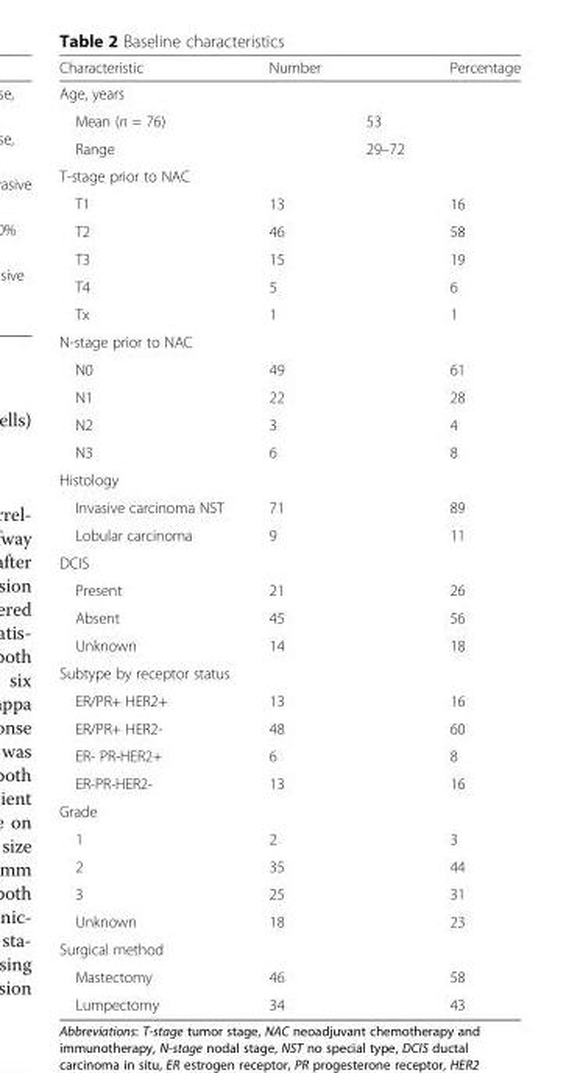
<table><thead><tr><td>Characteristic</td><td>Number</td><td></td><td>Percentage</td></tr></thead><tbody><tr><td colspan="4">Age, years</td></tr><tr><td>Mean (n = 76)</td><td></td><td>53</td><td></td></tr><tr><td>Range</td><td></td><td>29–72</td><td></td></tr><tr><td colspan="4">T-stage prior to NAC</td></tr><tr><td>T1</td><td>13</td><td></td><td>16</td></tr><tr><td>T2</td><td>46</td><td></td><td>58</td></tr><tr><td>T3</td><td>15</td><td></td><td>19</td></tr><tr><td>T4</td><td>5</td><td></td><td>6</td></tr><tr><td>Tx</td><td>1</td><td></td><td>1</td></tr><tr><td colspan="4">N-stage prior to NAC</td></tr><tr><td>N0</td><td>49</td><td></td><td>61</td></tr><tr><td>N1</td><td>22</td><td></td><td>28</td></tr><tr><td>N2</td><td>3</td><td></td><td>4</td></tr><tr><td>N3</td><td>6</td><td></td><td>8</td></tr><tr><td colspan="4">Histology</td></tr><tr><td>Invasive carcinoma NST</td><td>71</td><td></td><td>89</td></tr><tr><td>Lobular carcinoma</td><td>9</td><td></td><td>11</td></tr><tr><td colspan="4">DCIS</td></tr><tr><td>Present</td><td>21</td><td></td><td>26</td></tr><tr><td>Absent</td><td>45</td><td></td><td>56</td></tr><tr><td>Unknown</td><td>14</td><td></td><td>18</td></tr><tr><td colspan="4">Subtype by receptor status</td></tr><tr><td>ER/PR+ HER2+</td><td>13</td><td></td><td>16</td></tr><tr><td>ER/PR+ HER2-</td><td>48</td><td></td><td>60</td></tr><tr><td>ER- PR-HER2+</td><td>6</td><td></td><td>8</td></tr><tr><td>ER-PR-HER2-</td><td>13</td><td></td><td>16</td></tr><tr><td colspan="4">Grade</td></tr><tr><td>1</td><td>2</td><td></td><td>3</td></tr><tr><td>2</td><td>35</td><td></td><td>44</td></tr><tr><td>3</td><td>25</td><td></td><td>31</td></tr><tr><td>Unknown</td><td>18</td><td></td><td>23</td></tr><tr><td colspan="4">Surgical method</td></tr><tr><td>Mastectomy</td><td>46</td><td></td><td>58</td></tr><tr><td>Lumpectomy</td><td>34</td><td></td><td>43</td></tr></tbody></table>